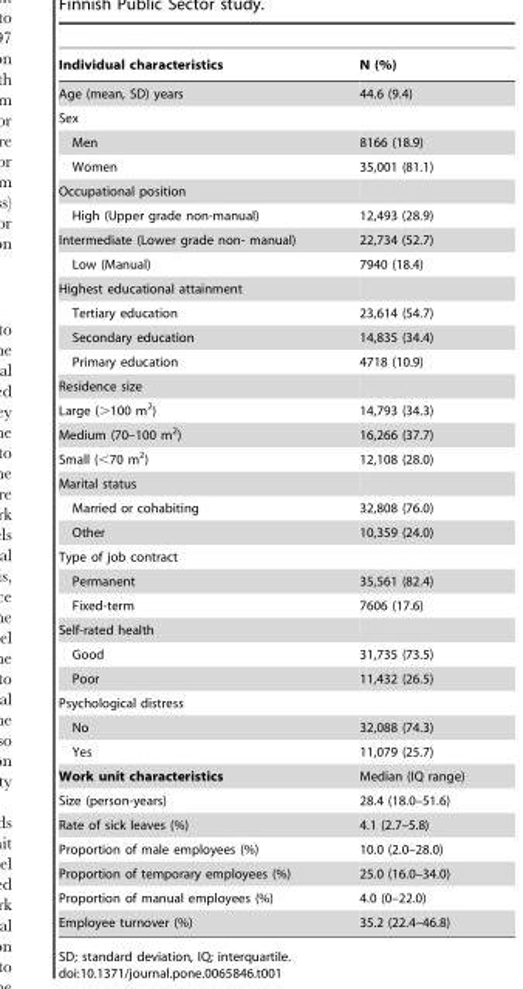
<table><thead><tr><td>Individual characteristics</td><td>N (%)</td></tr></thead><tbody><tr><td>Age (mean, SD) years</td><td>44.6 (9.4)</td></tr><tr><td colspan="2">Sex</td></tr><tr><td>Men</td><td>8166 (18.9)</td></tr><tr><td>Women</td><td>35,001 (81.1)</td></tr><tr><td colspan="2">Occupational position</td></tr><tr><td>High (Upper grade non-manual)</td><td>12,493 (28.9)</td></tr><tr><td>Intermediate (Lower grade non- manual)</td><td>22,734 (52.7)</td></tr><tr><td>Low (Manual)</td><td>7940 (18.4)</td></tr><tr><td colspan="2">Highest educational attainment</td></tr><tr><td>Tertiary education</td><td>23,614 (54.7)</td></tr><tr><td>Secondary education</td><td>14,835 (34.4)</td></tr><tr><td>Primary education</td><td>4718 (10.9)</td></tr><tr><td colspan="2">Residence size</td></tr><tr><td>Large (&gt;100 m<sup>2</sup>)</td><td>14,793 (34.3)</td></tr><tr><td>Medium (70–100 m<sup>2</sup>)</td><td>16,266 (37.7)</td></tr><tr><td>Small (&lt;70 m<sup>2</sup>)</td><td>12,108 (28.0)</td></tr><tr><td colspan="2">Marital status</td></tr><tr><td>Married or cohabiting</td><td>32,808 (76.0)</td></tr><tr><td>Other</td><td>10,359 (24.0)</td></tr><tr><td colspan="2">Type of job contract</td></tr><tr><td>Permanent</td><td>35,561 (82.4)</td></tr><tr><td>Fixed-term</td><td>7606 (17.6)</td></tr><tr><td colspan="2">Self-rated health</td></tr><tr><td>Good</td><td>31,735 (73.5)</td></tr><tr><td>Poor</td><td>11,432 (26.5)</td></tr><tr><td colspan="2">Psychological distress</td></tr><tr><td>No</td><td>32,088 (74.3)</td></tr><tr><td>Yes</td><td>11,079 (25.7)</td></tr><tr><td>Work unit characteristics</td><td>Median (IQ range)</td></tr><tr><td>Size (person-years)</td><td>28.4 (18.0–51.6)</td></tr><tr><td>Rate of sick leaves (%)</td><td>4.1 (2.7–5.8)</td></tr><tr><td>Proportion of male employees (%)</td><td>10.0 (2.0–28.0)</td></tr><tr><td>Proportion of temporary employees (%)</td><td>25.0 (16.0–34.0)</td></tr><tr><td>Proportion of manual employees (%)</td><td>4.0 (0–22.0)</td></tr><tr><td>Employee turnover (%)</td><td>35.2 (22.4–46.8)</td></tr></tbody></table>